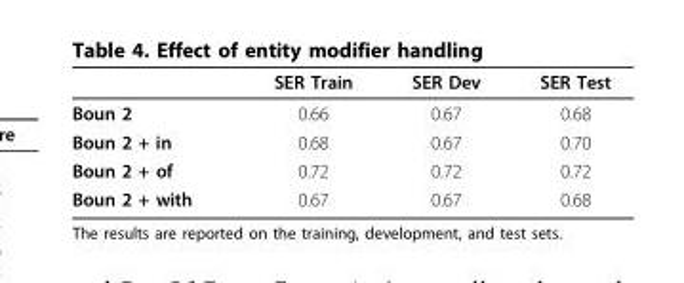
<table><thead><tr><td></td><td>SER Train</td><td>SER Dev</td><td>SER Test</td></tr></thead><tbody><tr><td>Boun 2</td><td>0.66</td><td>0.67</td><td>0.68</td></tr><tr><td>Boun 2 + in</td><td>0.68</td><td>0.67</td><td>0.70</td></tr><tr><td>Boun 2 + of</td><td>0.72</td><td>0.72</td><td>0.72</td></tr><tr><td>Boun 2 + with</td><td>0.67</td><td>0.67</td><td>0.68</td></tr></tbody></table>